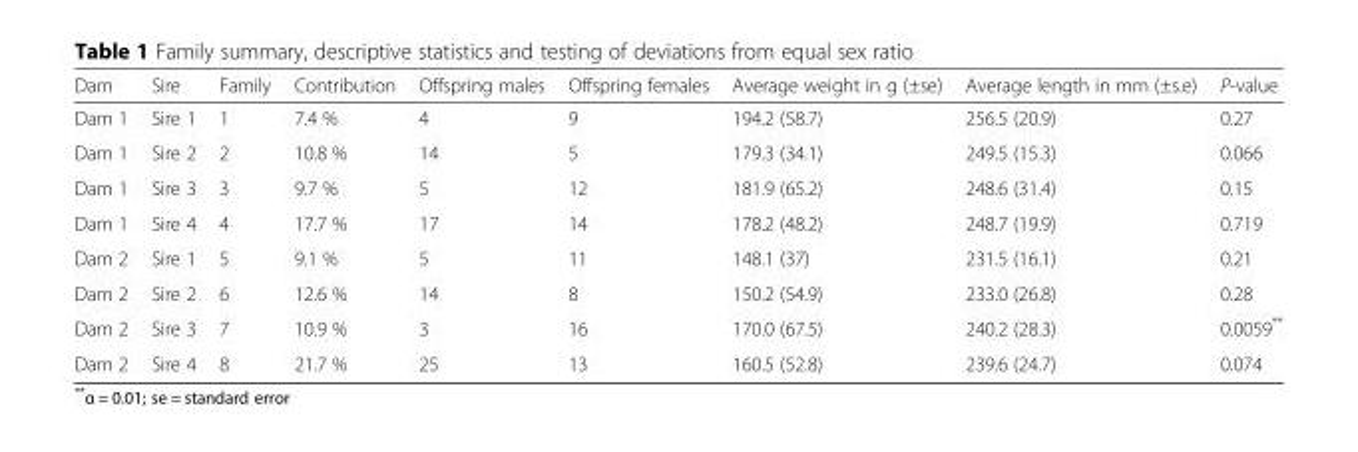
<table><thead><tr><td>Dam</td><td>Sire</td><td>Family</td><td>Contribution</td><td>Offspring males</td><td>Offspring females</td><td>Average weight in g (±se)</td><td>Average length in mm (±s.e)</td><td>P-value</td></tr></thead><tbody><tr><td>Dam 1</td><td>Sire 1</td><td>1</td><td>7.4 %</td><td>4</td><td>9</td><td>194.2 (58.7)</td><td>256.5 (20.9)</td><td>0.27</td></tr><tr><td>Dam 1</td><td>Sire 2</td><td>2</td><td>10.8 %</td><td>14</td><td>5</td><td>179.3 (34.1)</td><td>249.5 (15.3)</td><td>0.066</td></tr><tr><td>Dam 1</td><td>Sire 3</td><td>3</td><td>9.7 %</td><td>5</td><td>12</td><td>181.9 (65.2)</td><td>248.6 (31.4)</td><td>0.15</td></tr><tr><td>Dam 1</td><td>Sire 4</td><td>4</td><td>17.7 %</td><td>17</td><td>14</td><td>178.2 (48.2)</td><td>248.7 (19.9)</td><td>0.719</td></tr><tr><td>Dam 2</td><td>Sire 1</td><td>5</td><td>9.1 %</td><td>5</td><td>11</td><td>148.1 (37)</td><td>231.5 (16.1)</td><td>0.21</td></tr><tr><td>Dam 2</td><td>Sire 2</td><td>6</td><td>12.6 %</td><td>14</td><td>8</td><td>150.2 (54.9)</td><td>233.0 (26.8)</td><td>0.28</td></tr><tr><td>Dam 2</td><td>Sire 3</td><td>7</td><td>10.9 %</td><td>3</td><td>16</td><td>170.0 (67.5)</td><td>240.2 (28.3)</td><td>0.0059**</td></tr><tr><td>Dam 2</td><td>Sire 4</td><td>8</td><td>21.7 %</td><td>25</td><td>13</td><td>160.5 (52.8)</td><td>239.6 (24.7)</td><td>0.074</td></tr></tbody></table>